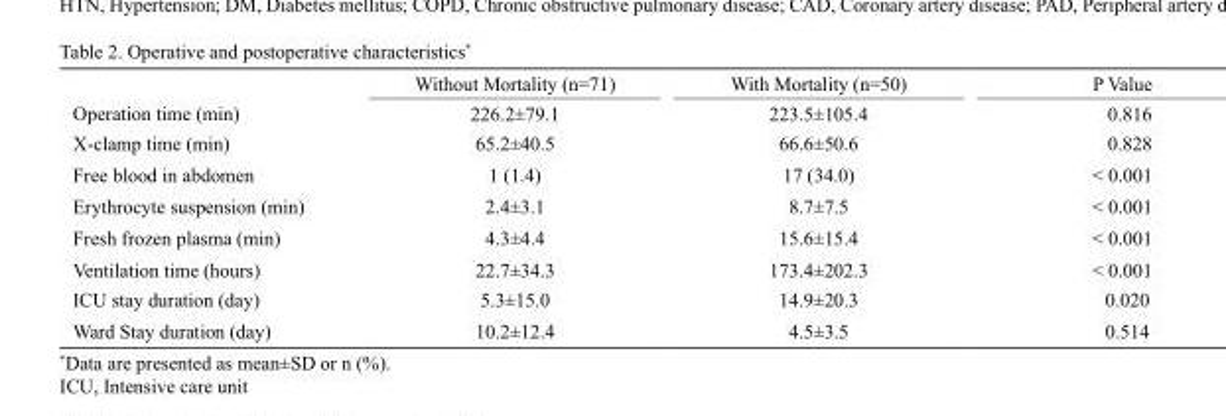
<table><thead><tr><td></td><td>Without Mortality (n=71)</td><td>With Mortality (n=50)</td><td>P Value</td></tr></thead><tbody><tr><td>Operation time (min)</td><td>226.2±79.1</td><td>223.5±105.4</td><td>0.816</td></tr><tr><td>X-clamp time (min)</td><td>65.2±40.5</td><td>66.6±50.6</td><td>0.828</td></tr><tr><td>Free blood in abdomen</td><td>1 (1.4)</td><td>17 (34.0)</td><td>&lt; 0.001</td></tr><tr><td>Erythrocyte suspension (min)</td><td>2.4±3.1</td><td>8.7±7.5</td><td>&lt; 0.001</td></tr><tr><td>Fresh frozen plasma (min)</td><td>4.3±4.4</td><td>15.6±15.4</td><td>&lt; 0.001</td></tr><tr><td>Ventilation time (hours)</td><td>22.7±34.3</td><td>173.4±202.3</td><td>&lt; 0.001</td></tr><tr><td>ICU stay duration (day)</td><td>5.3±15.0</td><td>14.9±20.3</td><td>0.020</td></tr><tr><td>Ward Stay duration (day)</td><td>10.2±12.4</td><td>4.5±3.5</td><td>0.514</td></tr></tbody></table>